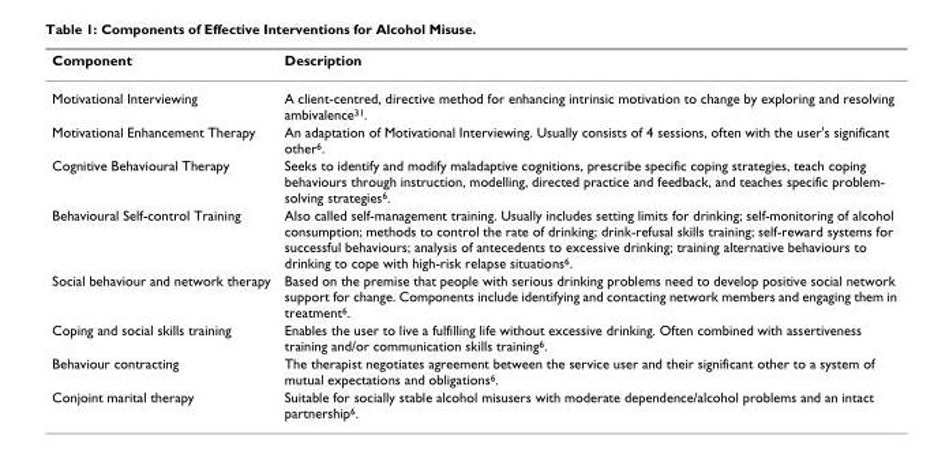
<table><thead><tr><td>Component</td><td>Description</td></tr></thead><tbody><tr><td>Motivational Interviewing</td><td>A client-centred, directive method for enhancing intrinsic motivation to change by exploring and resolving ambivalence<sup>31</sup>.</td></tr><tr><td>Motivational Enhancement Therapy</td><td>An adaptation of Motivational Interviewing. Usually consists of 4 sessions, often with the user&#x27;s significant other<sup>6</sup>.</td></tr><tr><td>Cognitive Behavioural Therapy</td><td>Seeks to identify and modify maladaptive cognitions, prescribe specific coping strategies, teach coping behaviours through instruction, modelling, directed practice and feedback, and teaches specific problem- solving strategies<sup>6</sup>.</td></tr><tr><td>Behavioural Self-control Training</td><td>Also called self-management training. Usually includes setting limits for drinking; self-monitoring of alcohol consumption; methods to control the rate of drinking; drink-refusal skills training; self-reward systems for successful behaviours; analysis of antecedents to excessive drinking; training alternative behaviours to drinking to cope with high-risk relapse situations<sup>6</sup>.</td></tr><tr><td>Social behaviour and network therapy</td><td>Based on the premise that people with serious drinking problems need to develop positive social network support for change. Components include identifying and contacting network members and engaging them in treatment<sup>6</sup>.</td></tr><tr><td>Coping and social skills training</td><td>Enables the user to live a fulfilling life without excessive drinking. Often combined with assertiveness training and/or communication skills training<sup>6</sup>.</td></tr><tr><td>Behaviour contracting</td><td>The therapist negotiates agreement between the service user and their significant other to a system of mutual expectations and obligations<sup>6</sup>.</td></tr><tr><td>Conjoint marital therapy</td><td>Suitable for socially stable alcohol misusers with moderate dependence/alcohol problems and an intact partnership<sup>6</sup>.</td></tr></tbody></table>